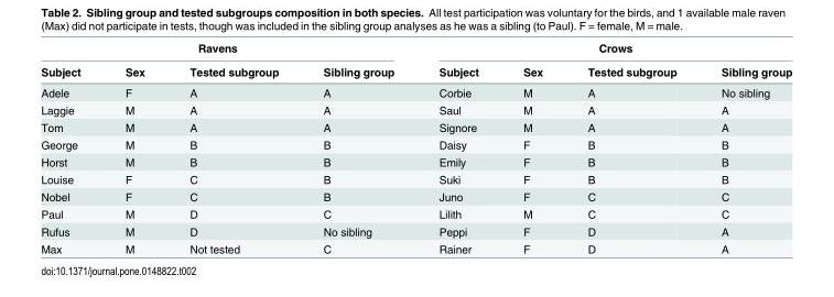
<table><thead><tr><td colspan="4">Ravens</td><td colspan="4">Crows</td></tr><tr><td>Subject</td><td>Sex</td><td>Tested subgroup</td><td>Sibling group</td><td>Subject</td><td>Sex</td><td>Tested subgroup</td><td>Sibling group</td></tr></thead><tbody><tr><td>Adele</td><td>F</td><td>A</td><td>A</td><td>Corbie</td><td>M</td><td>A</td><td>No sibling</td></tr><tr><td>Laggie</td><td>M</td><td>A</td><td>A</td><td>Saul</td><td>M</td><td>A</td><td>A</td></tr><tr><td>Tom</td><td>M</td><td>A</td><td>A</td><td>Signore</td><td>M</td><td>A</td><td>A</td></tr><tr><td>George</td><td>M</td><td>B</td><td>B</td><td>Daisy</td><td>F</td><td>B</td><td>B</td></tr><tr><td>Horst</td><td>M</td><td>B</td><td>B</td><td>Emily</td><td>F</td><td>B</td><td>B</td></tr><tr><td>Louise</td><td>F</td><td>C</td><td>B</td><td>Suki</td><td>F</td><td>B</td><td>B</td></tr><tr><td>Nobel</td><td>F</td><td>C</td><td>B</td><td>Juno</td><td>F</td><td>C</td><td>C</td></tr><tr><td>Paul</td><td>M</td><td>D</td><td>C</td><td>Lilith</td><td>M</td><td>C</td><td>C</td></tr><tr><td>Rufus</td><td>M</td><td>D</td><td>No sibling</td><td>Peppi</td><td>F</td><td>D</td><td>A</td></tr><tr><td>Max</td><td>M</td><td>Not tested</td><td>C</td><td>Rainer</td><td>F</td><td>D</td><td>A</td></tr></tbody></table>